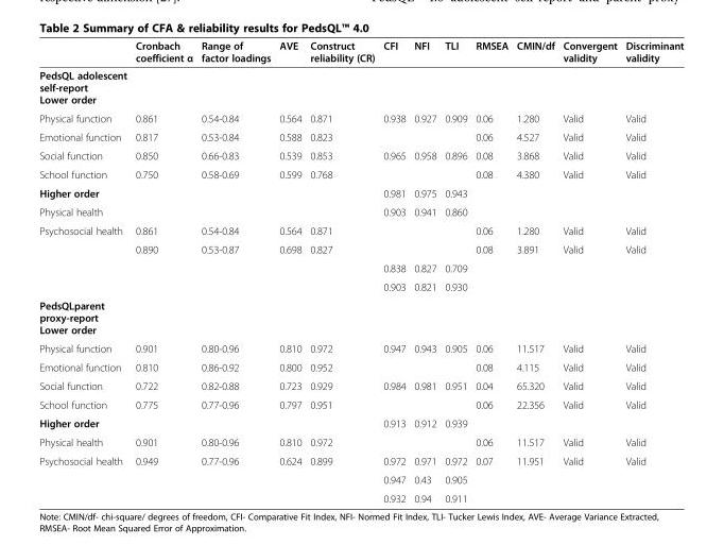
<table><thead><tr><td></td><td>Cronbach coefficient α</td><td>Range of factor loadings</td><td>AVE</td><td>Construct reliability (CR)</td><td>CFI</td><td>NFI</td><td>TLI</td><td>RMSEA</td><td>CMIN/df</td><td>Convergent validity</td><td>Discriminant validity</td></tr></thead><tbody><tr><td colspan="12">PedsQL adolescent self-report Lower order</td></tr><tr><td>Physical function</td><td>0.861</td><td>0.54-0.84</td><td>0.564</td><td>0.871</td><td>0.938</td><td>0.927</td><td>0.909</td><td>0.06</td><td>1.280</td><td>Valid</td><td>Valid</td></tr><tr><td>Emotional function</td><td>0.817</td><td>0.53-0.84</td><td>0.588</td><td>0.823</td><td></td><td></td><td></td><td>0.06</td><td>4.527</td><td>Valid</td><td>Valid</td></tr><tr><td>Social function</td><td>0.850</td><td>0.66-0.83</td><td>0.539</td><td>0.853</td><td>0.965</td><td>0.958</td><td>0.896</td><td>0.08</td><td>3.868</td><td>Valid</td><td>Valid</td></tr><tr><td>School function</td><td>0.750</td><td>0.58-0.69</td><td>0.599</td><td>0.768</td><td></td><td></td><td></td><td>0.08</td><td>4.380</td><td>Valid</td><td>Valid</td></tr><tr><td>Higher order</td><td></td><td></td><td></td><td></td><td>0.981</td><td>0.975</td><td>0.943</td><td></td><td></td><td></td><td></td></tr><tr><td>Physical health</td><td></td><td></td><td></td><td></td><td>0.903</td><td>0.941</td><td>0.860</td><td></td><td></td><td></td><td></td></tr><tr><td rowspan="4">Psychosocial health</td><td>0.861</td><td>0.54-0.84</td><td>0.564</td><td>0.871</td><td></td><td></td><td></td><td>0.06</td><td>1.280</td><td>Valid</td><td>Valid</td></tr><tr><td>0.890</td><td>0.53-0.87</td><td>0.698</td><td>0.827</td><td></td><td></td><td></td><td>0.08</td><td>3.891</td><td>Valid</td><td>Valid</td></tr><tr><td></td><td></td><td></td><td></td><td>0.838</td><td>0.827</td><td>0.709</td><td></td><td></td><td></td><td></td></tr><tr><td></td><td></td><td></td><td></td><td>0.903</td><td>0.821</td><td>0.930</td><td></td><td></td><td></td><td></td></tr><tr><td colspan="12">PedsQLparent proxy-report Lower order</td></tr><tr><td>Physical function</td><td>0.901</td><td>0.80-0.96</td><td>0.810</td><td>0.972</td><td>0.947</td><td>0.943</td><td>0.905</td><td>0.06</td><td>11.517</td><td>Valid</td><td>Valid</td></tr><tr><td>Emotional function</td><td>0.810</td><td>0.86-0.92</td><td>0.800</td><td>0.952</td><td></td><td></td><td></td><td>0.08</td><td>4.115</td><td>Valid</td><td>Valid</td></tr><tr><td>Social function</td><td>0.722</td><td>0.82-0.88</td><td>0.723</td><td>0.929</td><td>0.984</td><td>0.981</td><td>0.951</td><td>0.04</td><td>65.320</td><td>Valid</td><td>Valid</td></tr><tr><td>School function</td><td>0.775</td><td>0.77-0.96</td><td>0.797</td><td>0.951</td><td></td><td></td><td></td><td>0.06</td><td>22.356</td><td>Valid</td><td>Valid</td></tr><tr><td>Higher order</td><td></td><td></td><td></td><td></td><td>0.913</td><td>0.912</td><td>0.939</td><td></td><td></td><td></td><td></td></tr><tr><td>Physical health</td><td>0.901</td><td>0.80-0.96</td><td>0.810</td><td>0.972</td><td></td><td></td><td></td><td>0.06</td><td>11.517</td><td>Valid</td><td>Valid</td></tr><tr><td rowspan="3">Psychosocial health</td><td>0.949</td><td>0.77-0.96</td><td>0.624</td><td>0.899</td><td>0.972</td><td>0.971</td><td>0.972</td><td>0.07</td><td>11.951</td><td>Valid</td><td>Valid</td></tr><tr><td></td><td></td><td></td><td></td><td>0.947</td><td>0.43</td><td>0.905</td><td></td><td></td><td></td><td></td></tr><tr><td></td><td></td><td></td><td></td><td>0.932</td><td>0.94</td><td>0.911</td><td></td><td></td><td></td><td></td></tr></tbody></table>